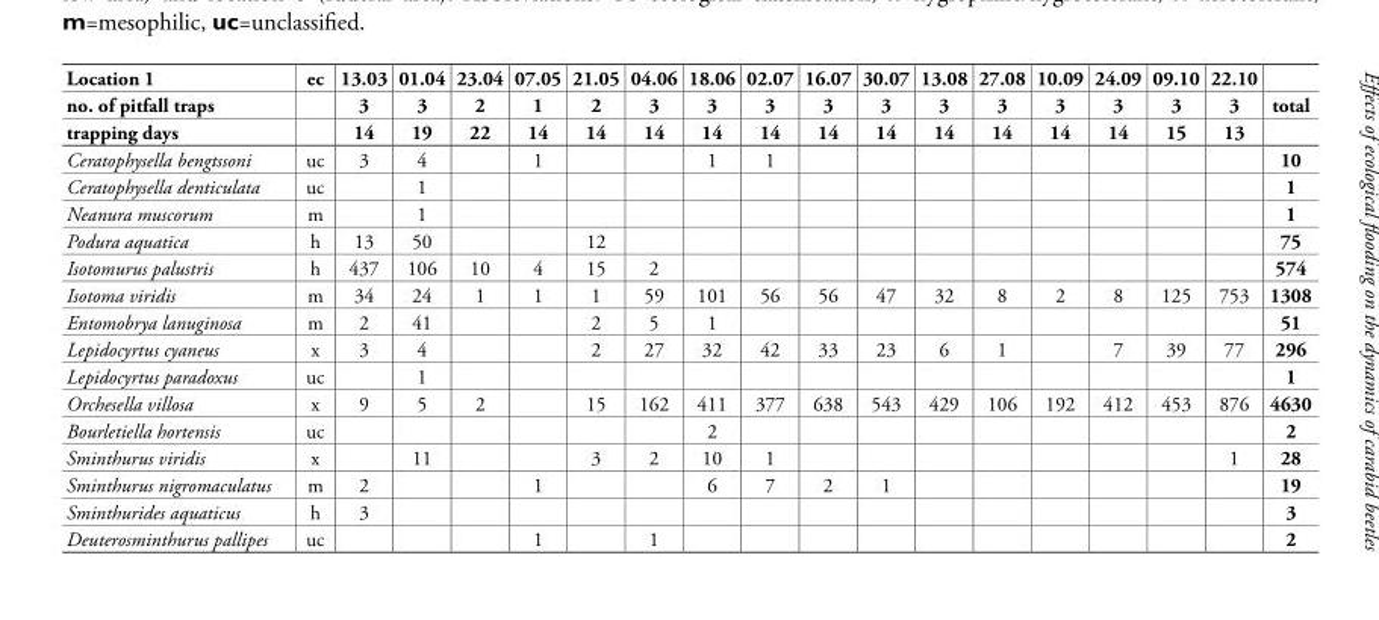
<table><thead><tr><td rowspan="3">Location 1 no. of pitfall traps trapping days</td><td rowspan="3">ec</td><td rowspan="3">13.03 3 14</td><td rowspan="3">01.04 3 19</td><td rowspan="3">23.04 2 22</td><td rowspan="3">07.05 1 14</td><td rowspan="3">21.05 2 14</td><td rowspan="3">04.06 3 14</td><td rowspan="3">18.06 3 14</td><td rowspan="3">02.07 3 14</td><td rowspan="3">16.07 3 14</td><td rowspan="3">30.07 3 14</td><td rowspan="3">13.08 3 14</td><td rowspan="3">27.08 3 14</td><td rowspan="3">10.09 3 14</td><td rowspan="3">24.09 3 14</td><td rowspan="3">09.10 3 15</td><td rowspan="3">22.10 3 13</td><td rowspan="3">total</td></tr><tr></tr><tr></tr></thead><tbody><tr><td>Ceratophysella bengtssoni</td><td>uc</td><td>3</td><td>4</td><td></td><td>1</td><td></td><td></td><td>1</td><td>1</td><td></td><td></td><td></td><td></td><td></td><td></td><td></td><td></td><td>10</td></tr><tr><td>Ceratophysella denticulata</td><td>uc</td><td></td><td>1</td><td></td><td></td><td></td><td></td><td></td><td></td><td></td><td></td><td></td><td></td><td></td><td></td><td></td><td></td><td>1</td></tr><tr><td>Neanura muscorum</td><td>m</td><td></td><td>1</td><td></td><td></td><td></td><td></td><td></td><td></td><td></td><td></td><td></td><td></td><td></td><td></td><td></td><td></td><td>1</td></tr><tr><td>Podura aquatica</td><td>h</td><td>13</td><td>50</td><td></td><td></td><td>12</td><td></td><td></td><td></td><td></td><td></td><td></td><td></td><td></td><td></td><td></td><td></td><td>75</td></tr><tr><td>Isotomurus palustris</td><td>h</td><td>437</td><td>106</td><td>10</td><td>4</td><td>15</td><td>2</td><td></td><td></td><td></td><td></td><td></td><td></td><td></td><td></td><td></td><td></td><td>574</td></tr><tr><td>Isotoma viridis</td><td>m</td><td>34</td><td>24</td><td>1</td><td>1</td><td>1</td><td>59</td><td>101</td><td>56</td><td>56</td><td>47</td><td>32</td><td>8</td><td>2</td><td>8</td><td>125</td><td>753</td><td>1308</td></tr><tr><td>Entomobrya lanuginosa</td><td>m</td><td>2</td><td>41</td><td></td><td></td><td>2</td><td>5</td><td>1</td><td></td><td></td><td></td><td></td><td></td><td></td><td></td><td></td><td></td><td>51</td></tr><tr><td>Lepidocyrtus cyaneus</td><td>x</td><td>3</td><td>4</td><td></td><td></td><td>2</td><td>27</td><td>32</td><td>42</td><td>33</td><td>23</td><td>6</td><td>1</td><td></td><td>7</td><td>39</td><td>77</td><td>296</td></tr><tr><td>Lepidocyrtus paradoxus</td><td>uc</td><td></td><td>1</td><td></td><td></td><td></td><td></td><td></td><td></td><td></td><td></td><td></td><td></td><td></td><td></td><td></td><td></td><td>1</td></tr><tr><td>Orchesella villosa</td><td>x</td><td>9</td><td>5</td><td>2</td><td></td><td>15</td><td>162</td><td>411</td><td>377</td><td>638</td><td>543</td><td>429</td><td>106</td><td>192</td><td>412</td><td>453</td><td>876</td><td>4630</td></tr><tr><td>Bourletiella hortensis</td><td>uc</td><td></td><td></td><td></td><td></td><td></td><td></td><td>2</td><td></td><td></td><td></td><td></td><td></td><td></td><td></td><td></td><td></td><td>2</td></tr><tr><td>Sminthurus viridis</td><td>x</td><td></td><td>11</td><td></td><td></td><td>3</td><td>2</td><td>10</td><td>1</td><td></td><td></td><td></td><td></td><td></td><td></td><td></td><td>1</td><td>28</td></tr><tr><td>Sminthurus nigromaculatus</td><td>m</td><td>2</td><td></td><td></td><td>1</td><td></td><td></td><td>6</td><td>7</td><td>2</td><td>1</td><td></td><td></td><td></td><td></td><td></td><td></td><td>19</td></tr><tr><td>Sminthurides aquaticus</td><td>h</td><td>3</td><td></td><td></td><td></td><td></td><td></td><td></td><td></td><td></td><td></td><td></td><td></td><td></td><td></td><td></td><td></td><td>3</td></tr><tr><td>Deuterosminthurus pallipes</td><td>uc</td><td></td><td></td><td></td><td>1</td><td></td><td>1</td><td></td><td></td><td></td><td></td><td></td><td></td><td></td><td></td><td></td><td></td><td>2</td></tr></tbody></table>